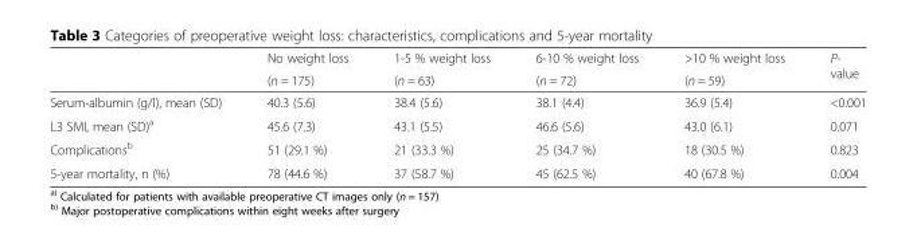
<table><thead><tr><td rowspan="2"></td><td rowspan="2">No weight loss (n = 175)</td><td rowspan="2">1-5 % weight loss (n = 63)</td><td rowspan="2">6-10 % weight loss (n = 72)</td><td rowspan="2">&gt;10 % weight loss (n = 59)</td><td rowspan="2">P- value</td></tr><tr></tr></thead><tbody><tr><td>Serum-albumin (g/l), mean (SD)</td><td>40.3 (5.6)</td><td>38.4 (5.6)</td><td>38.1 (4.4)</td><td>36.9 (5.4)</td><td>&lt;0.001</td></tr><tr><td>L3 SMI, mean (SD)<sup>a</sup></td><td>45.6 (7.3)</td><td>43.1 (5.5)</td><td>46.6 (5.6)</td><td>43.0 (6.1)</td><td>0.071</td></tr><tr><td>Complications<sup>b</sup></td><td>51 (29.1 %)</td><td>21 (33.3 %)</td><td>25 (34.7 %)</td><td>18 (30.5 %)</td><td>0.823</td></tr><tr><td>5-year mortality, n (%)</td><td>78 (44.6 %)</td><td>37 (58.7 %)</td><td>45 (62.5 %)</td><td>40 (67.8 %)</td><td>0.004</td></tr></tbody></table>